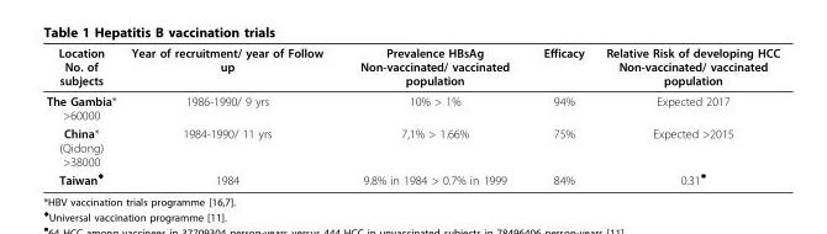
<table><thead><tr><td>Location No. of subjects</td><td>Year of recruitment/ year of Follow up</td><td>Prevalence HBsAg Non-vaccinated/ vaccinated population</td><td>Efficacy</td><td>Relative Risk of developing HCC Non-vaccinated/ vaccinated population</td></tr></thead><tbody><tr><td>The Gambia* &gt;60000</td><td>1986-1990/ 9 yrs</td><td>10% &gt; 1%</td><td>94%</td><td>Expected 2017</td></tr><tr><td>China* (Qidong) &gt;38000</td><td>1984-1990/ 11 yrs</td><td>7,1% &gt; 1.66%</td><td>75%</td><td>Expected &gt;2015</td></tr><tr><td>Taiwan<sup>♦</sup></td><td>1984</td><td>9.8% in 1984 &gt; 0.7% in 1999</td><td>84%</td><td>0.31<sup>■</sup></td></tr></tbody></table>